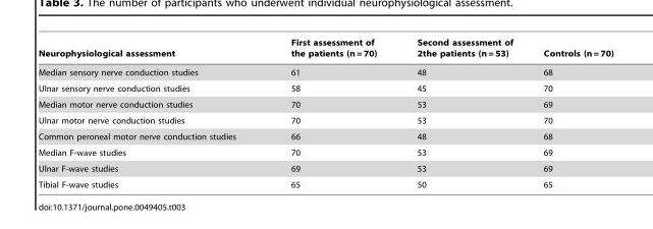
<table><thead><tr><td>Neurophysiological assessment</td><td>First assessment of the patients (n = 70)</td><td>Second assessment of 2the patients (n = 53)</td><td>Controls (n = 70)</td></tr></thead><tbody><tr><td>Median sensory nerve conduction studies</td><td>61</td><td>48</td><td>68</td></tr><tr><td>Ulnar sensory nerve conduction studies</td><td>58</td><td>45</td><td>70</td></tr><tr><td>Median motor nerve conduction studies</td><td>70</td><td>53</td><td>69</td></tr><tr><td>Ulnar motor nerve conduction studies</td><td>70</td><td>53</td><td>70</td></tr><tr><td>Common peroneal motor nerve conduction studies</td><td>66</td><td>48</td><td>68</td></tr><tr><td>Median F-wave studies</td><td>70</td><td>53</td><td>69</td></tr><tr><td>Ulnar F-wave studies</td><td>69</td><td>53</td><td>69</td></tr><tr><td>Tibial F-wave studies</td><td>65</td><td>50</td><td>65</td></tr></tbody></table>